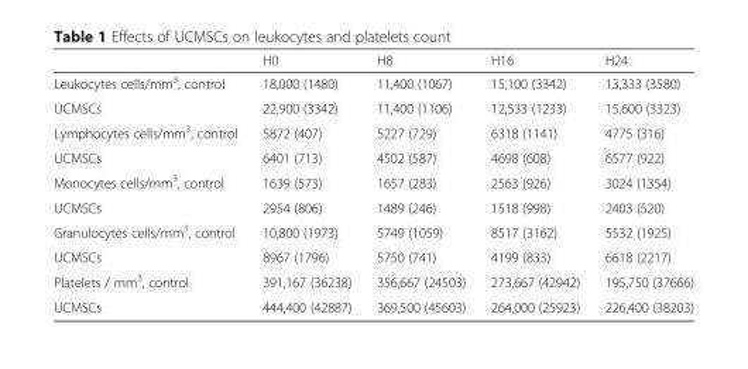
<table><thead><tr><td></td><td>H0</td><td>H8</td><td>H16</td><td>H24</td></tr></thead><tbody><tr><td>Leukocytes cells/mm<sup>3</sup>, control</td><td>18,000 (1480)</td><td>11,400 (1067)</td><td>15,100 (3342)</td><td>13,333 (3580)</td></tr><tr><td>UCMSCs</td><td>22,900 (3342)</td><td>11,400 (1106)</td><td>12,533 (1233)</td><td>15,600 (3323)</td></tr><tr><td>Lymphocytes cells/mm<sup>3</sup>, control</td><td>5872 (407)</td><td>5227 (729)</td><td>6318 (1141)</td><td>4775 (316)</td></tr><tr><td>UCMSCs</td><td>6401 (713)</td><td>4502 (587)</td><td>4698 (608)</td><td>6577 (922)</td></tr><tr><td>Monocytes cells/mm<sup>3</sup>, control</td><td>1639 (573)</td><td>1657 (283)</td><td>2563 (926)</td><td>3024 (1354)</td></tr><tr><td>UCMSCs</td><td>2954 (806)</td><td>1489 (246)</td><td>1518 (998)</td><td>2403 (520)</td></tr><tr><td>Granulocytes cells/mm<sup>3</sup>, control</td><td>10,800 (1973)</td><td>5749 (1059)</td><td>8517 (3162)</td><td>5532 (1925)</td></tr><tr><td>UCMSCs</td><td>8967 (1796)</td><td>5750 (741)</td><td>4199 (833)</td><td>6618 (2217)</td></tr><tr><td>Platelets / mm<sup>3</sup>, control</td><td>391,167 (36238)</td><td>356,667 (24503)</td><td>273,667 (42942)</td><td>195,750 (37666)</td></tr><tr><td>UCMSCs</td><td>444,400 (42887)</td><td>369,500 (45603)</td><td>264,000 (25923)</td><td>226,400 (38203)</td></tr></tbody></table>